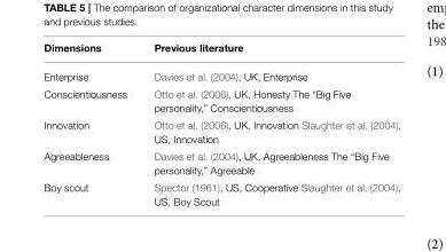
<table><thead><tr><td>Dimensions</td><td>Previous literature</td></tr></thead><tbody><tr><td>Enterprise</td><td>Davies et al. (2004), UK, Enterprise</td></tr><tr><td>Conscientiousness</td><td>Otto et al. (2006), UK, Honesty The “Big Five personality,” Conscientiousness</td></tr><tr><td>Innovation</td><td>Otto et al. (2006), UK, Innovation Slaughter et al. (2004), US, Innovation</td></tr><tr><td>Agreeableness</td><td>Davies et al. (2004), UK, Agreeableness The “Big Five personality,” Agreeable</td></tr><tr><td>Boy scout</td><td>Spector (1961), US, Cooperative Slaughter et al. (2004), US, Boy Scout</td></tr></tbody></table>